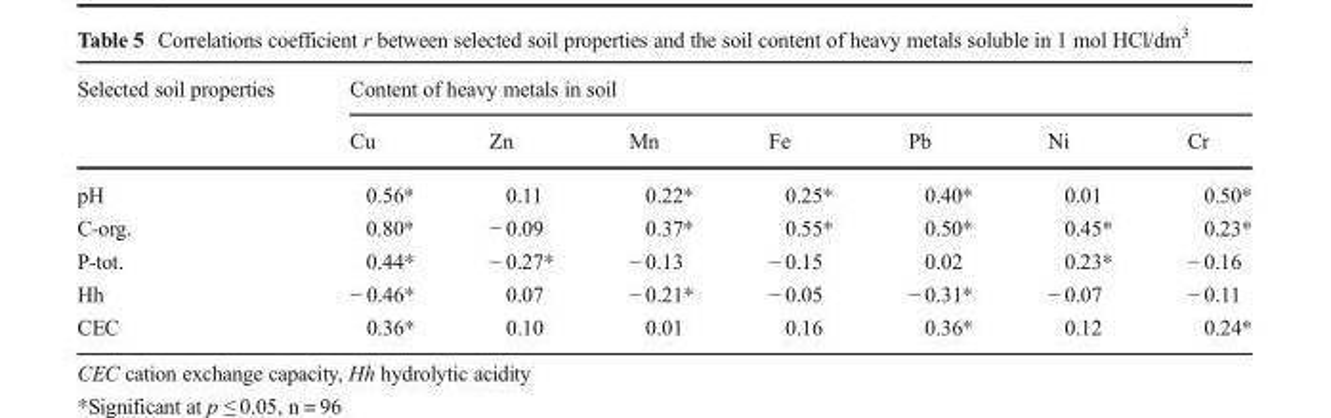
<table><thead><tr><td rowspan="2">Selected soil properties</td><td colspan="7">Content of heavy metals in soil</td></tr><tr><td>Cu</td><td>Zn</td><td>Mn</td><td>Fe</td><td>Pb</td><td>Ni</td><td>Cr</td></tr></thead><tbody><tr><td>pH</td><td>0.56*</td><td>0.11</td><td>0.22*</td><td>0.25*</td><td>0.40*</td><td>0.01</td><td>0.50*</td></tr><tr><td>C-org.</td><td>0.80*</td><td>− 0.09</td><td>0.37*</td><td>0.55*</td><td>0.50*</td><td>0.45*</td><td>0.23*</td></tr><tr><td>P-tot.</td><td>0.44*</td><td>− 0.27*</td><td>− 0.13</td><td>− 0.15</td><td>0.02</td><td>0.23*</td><td>− 0.16</td></tr><tr><td>Hh</td><td>− 0.46*</td><td>0.07</td><td>− 0.21*</td><td>− 0.05</td><td>− 0.31*</td><td>− 0.07</td><td>− 0.11</td></tr><tr><td>CEC</td><td>0.36*</td><td>0.10</td><td>0.01</td><td>0.16</td><td>0.36*</td><td>0.12</td><td>0.24*</td></tr></tbody></table>